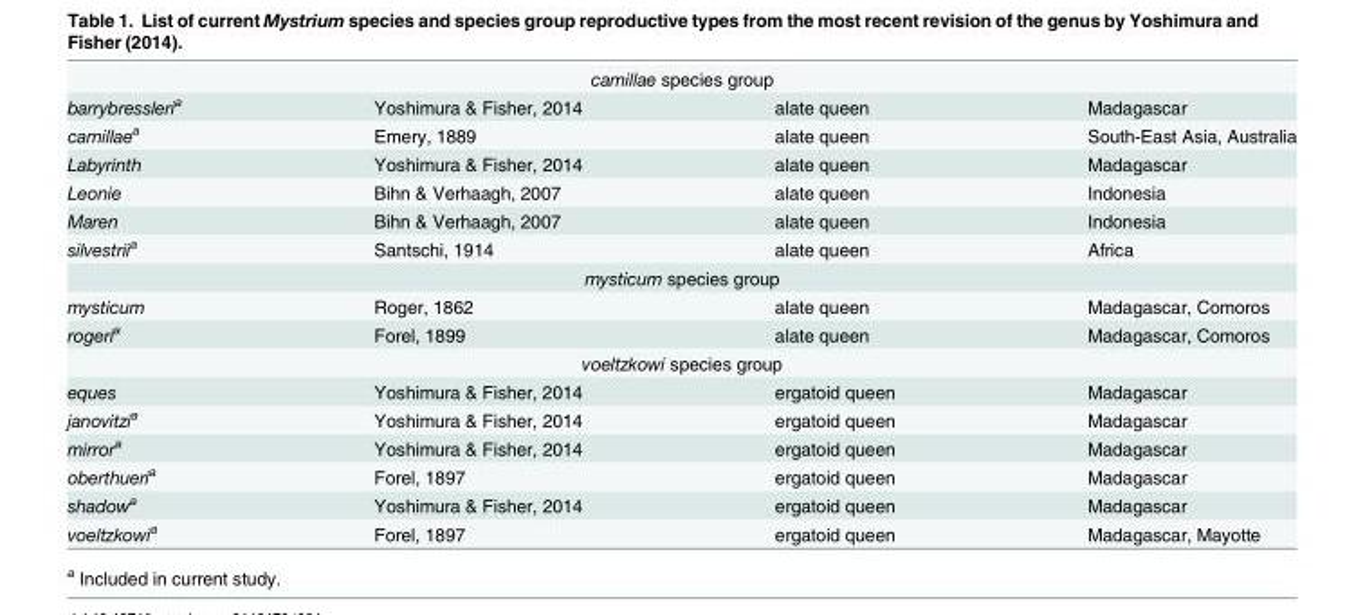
<table><tbody><tr><td colspan="4">camillae species group</td></tr><tr><td>barrybressleri<sup>a</sup></td><td>Yoshimura &amp; Fisher, 2014</td><td>alate queen</td><td>Madagascar</td></tr><tr><td>camillae<sup>a</sup></td><td>Emery, 1889</td><td>alate queen</td><td>South-East Asia, Australia</td></tr><tr><td>Labyrinth</td><td>Yoshimura &amp; Fisher, 2014</td><td>alate queen</td><td>Madagascar</td></tr><tr><td>Leonie</td><td>Bihn &amp; Verhaagh, 2007</td><td>alate queen</td><td>Indonesia</td></tr><tr><td>Maren</td><td>Bihn &amp; Verhaagh, 2007</td><td>alate queen</td><td>Indonesia</td></tr><tr><td>silvestrii<sup>a</sup></td><td>Santschi, 1914</td><td>alate queen</td><td>Africa</td></tr><tr><td colspan="4">mysticum species group</td></tr><tr><td>mysticum</td><td>Roger, 1862</td><td>alate queen</td><td>Madagascar, Comoros</td></tr><tr><td>rogeri<sup>a</sup></td><td>Forel, 1899</td><td>alate queen</td><td>Madagascar, Comoros</td></tr><tr><td colspan="4">voeltzkowi species group</td></tr><tr><td>eques</td><td>Yoshimura &amp; Fisher, 2014</td><td>ergatoid queen</td><td>Madagascar</td></tr><tr><td>janovitzi<sup>a</sup></td><td>Yoshimura &amp; Fisher, 2014</td><td>ergatoid queen</td><td>Madagascar</td></tr><tr><td>mirror<sup>a</sup></td><td>Yoshimura &amp; Fisher, 2014</td><td>ergatoid queen</td><td>Madagascar</td></tr><tr><td>oberthueri<sup>a</sup></td><td>Forel, 1897</td><td>ergatoid queen</td><td>Madagascar</td></tr><tr><td>shadow<sup>a</sup></td><td>Yoshimura &amp; Fisher, 2014</td><td>ergatoid queen</td><td>Madagascar</td></tr><tr><td>voeltzkowi<sup>a</sup></td><td>Forel, 1897</td><td>ergatoid queen</td><td>Madagascar, Mayotte</td></tr></tbody></table>